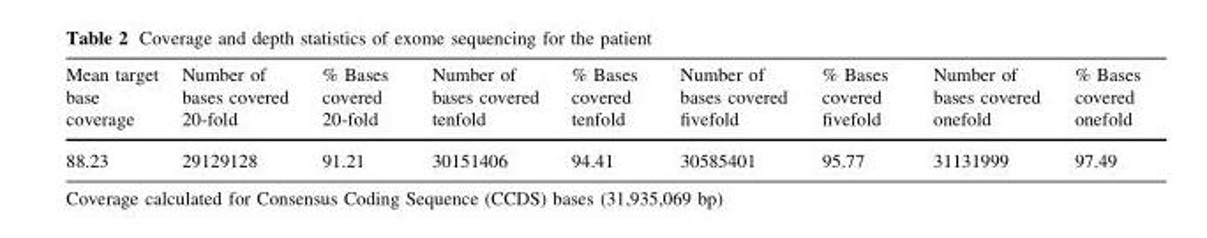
<table><thead><tr><td>Mean target base coverage</td><td>Number of bases covered 20-fold</td><td>% Bases covered 20-fold</td><td>Number of bases covered tenfold</td><td>% Bases covered tenfold</td><td>Number of bases covered fivefold</td><td>% Bases covered fivefold</td><td>Number of bases covered onefold</td><td>% Bases covered onefold</td></tr></thead><tbody><tr><td>88.23</td><td>29129128</td><td>91.21</td><td>30151406</td><td>94.41</td><td>30585401</td><td>95.77</td><td>31131999</td><td>97.49</td></tr></tbody></table>